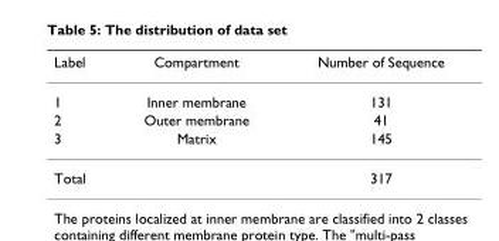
<table><thead><tr><td>Label</td><td>Compartment</td><td>Number of Sequence</td></tr></thead><tbody><tr><td>1</td><td>Inner membrane</td><td>131</td></tr><tr><td>2</td><td>Outer membrane</td><td>41</td></tr><tr><td>3</td><td>Matrix</td><td>145</td></tr><tr><td colspan="2">Total</td><td>317</td></tr></tbody></table>